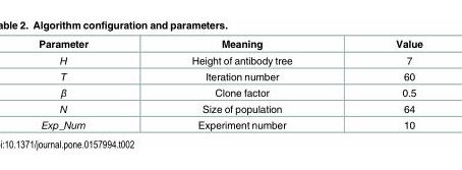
<table><thead><tr><td>Parameter</td><td>Meaning</td><td>Value</td></tr></thead><tbody><tr><td>H</td><td>Height of antibody tree</td><td>7</td></tr><tr><td>T</td><td>Iteration number</td><td>60</td></tr><tr><td>β</td><td>Clone factor</td><td>0.5</td></tr><tr><td>N</td><td>Size of population</td><td>64</td></tr><tr><td>Exp_Num</td><td>Experiment number</td><td>10</td></tr></tbody></table>